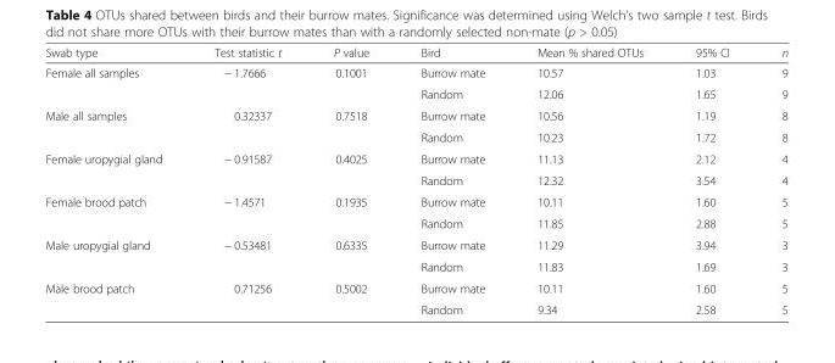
<table><thead><tr><td>Swab type</td><td>Test statistic t</td><td>P value</td><td>Bird</td><td>Mean % shared OTUs</td><td>95% CI</td><td>n</td></tr></thead><tbody><tr><td rowspan="2">Female all samples</td><td rowspan="2">− 1.7666</td><td rowspan="2">0.1001</td><td>Burrow mate</td><td>10.57</td><td>1.03</td><td>9</td></tr><tr><td>Random</td><td>12.06</td><td>1.65</td><td>9</td></tr><tr><td rowspan="2">Male all samples</td><td rowspan="2">0.32337</td><td rowspan="2">0.7518</td><td>Burrow mate</td><td>10.56</td><td>1.19</td><td>8</td></tr><tr><td>Random</td><td>10.23</td><td>1.72</td><td>8</td></tr><tr><td rowspan="2">Female uropygial gland</td><td rowspan="2">− 0.91587</td><td rowspan="2">0.4025</td><td>Burrow mate</td><td>11.13</td><td>2.12</td><td>4</td></tr><tr><td>Random</td><td>12.32</td><td>3.54</td><td>4</td></tr><tr><td rowspan="2">Female brood patch</td><td rowspan="2">− 1.4571</td><td rowspan="2">0.1935</td><td>Burrow mate</td><td>10.11</td><td>1.60</td><td>5</td></tr><tr><td>Random</td><td>11.85</td><td>2.88</td><td>5</td></tr><tr><td rowspan="2">Male uropygial gland</td><td rowspan="2">− 0.53481</td><td rowspan="2">0.6335</td><td>Burrow mate</td><td>11.29</td><td>3.94</td><td>3</td></tr><tr><td>Random</td><td>11.83</td><td>1.69</td><td>3</td></tr><tr><td rowspan="2">Male brood patch</td><td rowspan="2">0.71256</td><td rowspan="2">0.5002</td><td>Burrow mate</td><td>10.11</td><td>1.60</td><td>5</td></tr><tr><td>Random</td><td>9.34</td><td>2.58</td><td>5</td></tr></tbody></table>